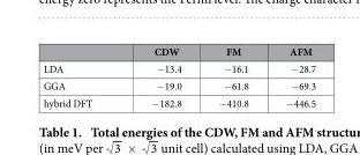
<table><thead><tr><td></td><td>CDW</td><td>FM</td><td>AFM</td></tr></thead><tbody><tr><td>LDA</td><td>− 13.4</td><td>− 16.1</td><td>− 28.7</td></tr><tr><td>GGA</td><td>− 19.0</td><td>− 61.8</td><td>− 69.3</td></tr><tr><td>hybrid DFT</td><td>− 182.8</td><td>− 410.8</td><td>− 446.5</td></tr></tbody></table>